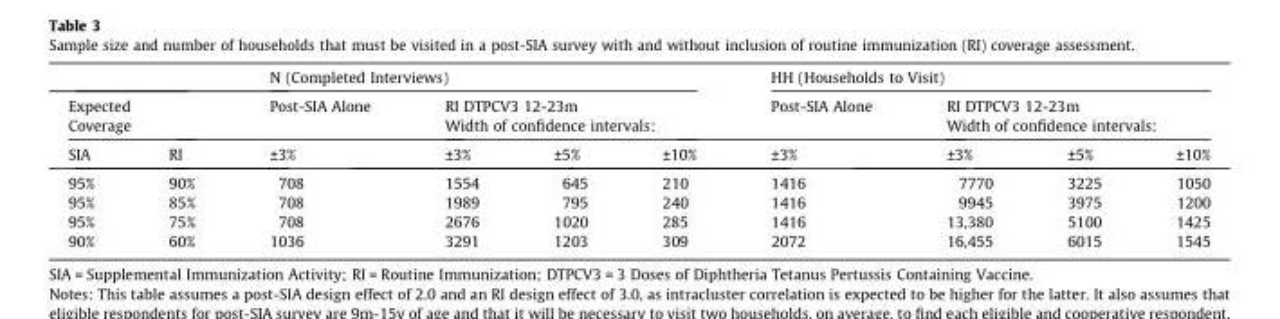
<table><thead><tr><td></td><td></td><td colspan="4">N (Completed Interviews)</td><td colspan="4">HH (Households to Visit)</td></tr><tr><td colspan="2">Expected Coverage</td><td rowspan="2">Post-SIA Alone ±3%</td><td colspan="3">RI DTPCV3 12-23m Width of confidence intervals:</td><td rowspan="2">Post-SIA Alone ±3%</td><td colspan="3">RI DTPCV3 12-23m Width of confidence intervals:</td></tr><tr><td>SIA</td><td>RI</td><td>±3%</td><td>±5%</td><td>±10%</td><td>±3%</td><td>±5%</td><td>±10%</td></tr></thead><tbody><tr><td>95%</td><td>90%</td><td>708</td><td>1554</td><td>645</td><td>210</td><td>1416</td><td>7770</td><td>3225</td><td>1050</td></tr><tr><td>95%</td><td>85%</td><td>708</td><td>1989</td><td>795</td><td>240</td><td>1416</td><td>9945</td><td>3975</td><td>1200</td></tr><tr><td>95%</td><td>75%</td><td>708</td><td>2676</td><td>1020</td><td>285</td><td>1416</td><td>13,380</td><td>5100</td><td>1425</td></tr><tr><td>90%</td><td>60%</td><td>1036</td><td>3291</td><td>1203</td><td>309</td><td>2072</td><td>16,455</td><td>6015</td><td>1545</td></tr></tbody></table>